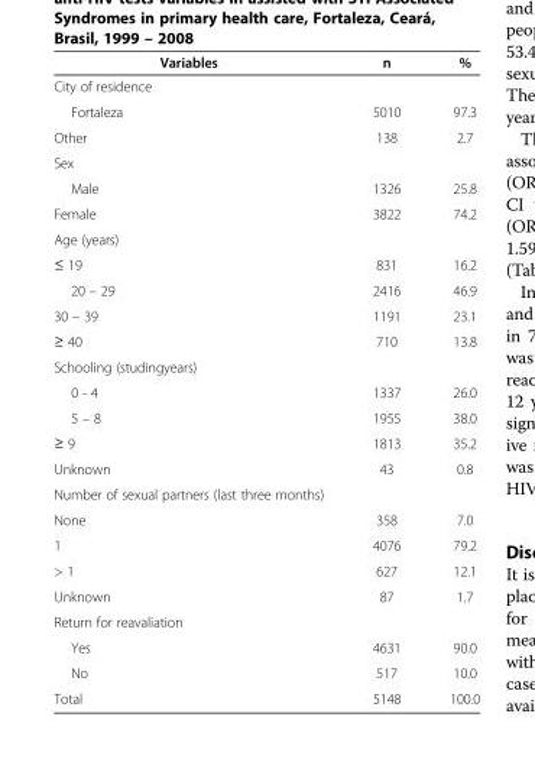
<table><thead><tr><td>Variables</td><td>n</td><td>%</td></tr></thead><tbody><tr><td colspan="3">City of residence</td></tr><tr><td>Fortaleza</td><td>5010</td><td>97.3</td></tr><tr><td>Other</td><td>138</td><td>2.7</td></tr><tr><td colspan="3">Sex</td></tr><tr><td>Male</td><td>1326</td><td>25.8</td></tr><tr><td>Female</td><td>3822</td><td>74.2</td></tr><tr><td colspan="3">Age (years)</td></tr><tr><td>≤ 19</td><td>831</td><td>16.2</td></tr><tr><td>20 – 29</td><td>2416</td><td>46.9</td></tr><tr><td>30 – 39</td><td>1191</td><td>23.1</td></tr><tr><td>≥ 40</td><td>710</td><td>13.8</td></tr><tr><td colspan="3">Schooling (studingyears)</td></tr><tr><td>0 - 4</td><td>1337</td><td>26.0</td></tr><tr><td>5 – 8</td><td>1955</td><td>38.0</td></tr><tr><td>≥ 9</td><td>1813</td><td>35.2</td></tr><tr><td>Unknown</td><td>43</td><td>0.8</td></tr><tr><td colspan="3">Number of sexual partners (last three months)</td></tr><tr><td>None</td><td>358</td><td>7.0</td></tr><tr><td>1</td><td>4076</td><td>79.2</td></tr><tr><td>&gt; 1</td><td>627</td><td>12.1</td></tr><tr><td>Unknown</td><td>87</td><td>1.7</td></tr><tr><td colspan="3">Return for reavaliation</td></tr><tr><td>Yes</td><td>4631</td><td>90.0</td></tr><tr><td>No</td><td>517</td><td>10.0</td></tr><tr><td>Total</td><td>5148</td><td>100.0</td></tr></tbody></table>